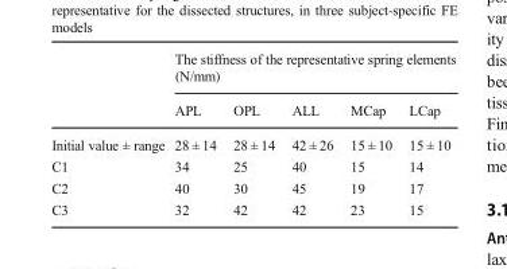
<table><thead><tr><td rowspan="2"></td><td colspan="5">The stiffness of the representative spring elements (N/mm)</td></tr><tr><td>APL</td><td>OPL</td><td>ALL</td><td>MCap</td><td>LCap</td></tr></thead><tbody><tr><td>Initial value ± range</td><td>28 ± 14</td><td>28 ± 14</td><td>42 ± 26</td><td>15 ± 10</td><td>15 ± 10</td></tr><tr><td>C1</td><td>34</td><td>25</td><td>40</td><td>15</td><td>14</td></tr><tr><td>C2</td><td>40</td><td>30</td><td>45</td><td>19</td><td>17</td></tr><tr><td>C3</td><td>32</td><td>42</td><td>42</td><td>23</td><td>15</td></tr></tbody></table>